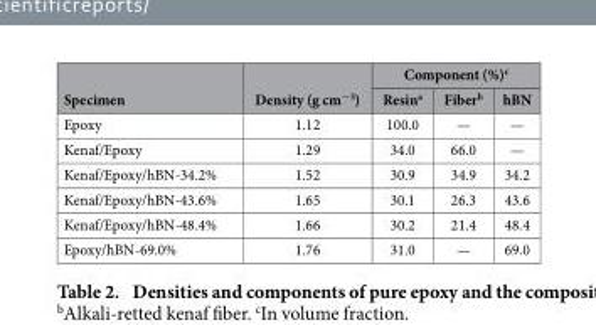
<table><thead><tr><td rowspan="2">Specimen</td><td rowspan="2">Density (g cm<sup>−3</sup>)</td><td colspan="3">Component (%)<sup>c</sup></td></tr><tr><td>Resin<sup>a</sup></td><td>Fiber<sup>b</sup></td><td>hBN</td></tr></thead><tbody><tr><td>Epoxy</td><td>1.12</td><td>100.0</td><td>—</td><td>—</td></tr><tr><td>Kenaf/Epoxy</td><td>1.29</td><td>34.0</td><td>66.0</td><td>—</td></tr><tr><td>Kenaf/Epoxy/hBN-34.2%</td><td>1.52</td><td>30.9</td><td>34.9</td><td>34.2</td></tr><tr><td>Kenaf/Epoxy/hBN-43.6%</td><td>1.65</td><td>30.1</td><td>26.3</td><td>43.6</td></tr><tr><td>Kenaf/Epoxy/hBN-48.4%</td><td>1.66</td><td>30.2</td><td>21.4</td><td>48.4</td></tr><tr><td>Epoxy/hBN-69.0%</td><td>1.76</td><td>31.0</td><td>—</td><td>69.0</td></tr></tbody></table>